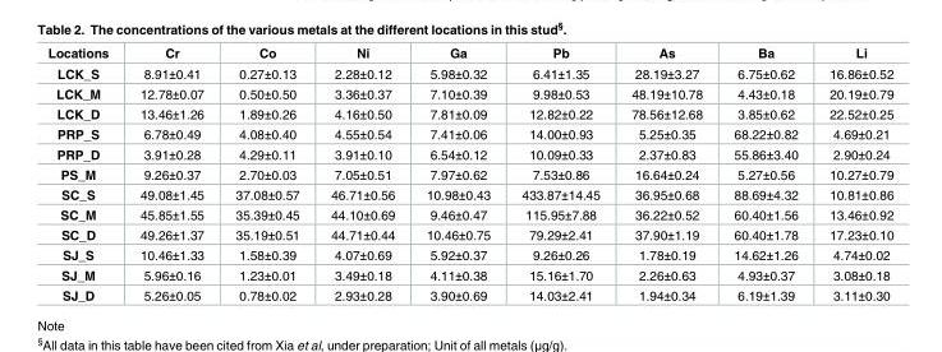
<table><thead><tr><td>Locations</td><td>Cr</td><td>Co</td><td>Ni</td><td>Ga</td><td>Pb</td><td>As</td><td>Ba</td><td>Li</td></tr></thead><tbody><tr><td>LCK_S</td><td>8.91±0.41</td><td>0.27±0.13</td><td>2.28±0.12</td><td>5.98±0.32</td><td>6.41±1.35</td><td>28.19±3.27</td><td>6.75±0.62</td><td>16.86±0.52</td></tr><tr><td>LCK_M</td><td>12.78±0.07</td><td>0.50±0.50</td><td>3.36±0.37</td><td>7.10±0.39</td><td>9.98±0.53</td><td>48.19±10.78</td><td>4.43±0.18</td><td>20.19±0.79</td></tr><tr><td>LCK_D</td><td>13.46±1.26</td><td>1.89±0.26</td><td>4.16±0.50</td><td>7.81±0.09</td><td>12.82±0.22</td><td>78.56±12.68</td><td>3.85±0.62</td><td>22.52±0.25</td></tr><tr><td>PRP_S</td><td>6.78±0.49</td><td>4.08±0.40</td><td>4.55±0.54</td><td>7.41±0.06</td><td>14.00±0.93</td><td>5.25±0.35</td><td>68.22±0.82</td><td>4.69±0.21</td></tr><tr><td>PRP_D</td><td>3.91±0.28</td><td>4.29±0.11</td><td>3.91±0.10</td><td>6.54±0.12</td><td>10.09±0.33</td><td>2.37±0.83</td><td>55.86±3.40</td><td>2.90±0.24</td></tr><tr><td>PS_M</td><td>9.26±0.37</td><td>2.70±0.03</td><td>7.05±0.51</td><td>7.97±0.62</td><td>7.53±0.86</td><td>16.64±0.24</td><td>5.27±0.56</td><td>10.27±0.79</td></tr><tr><td>SC_S</td><td>49.08±1.45</td><td>37.08±0.57</td><td>46.71±0.56</td><td>10.98±0.43</td><td>433.87±14.45</td><td>36.95±0.68</td><td>88.69±4.32</td><td>10.81±0.86</td></tr><tr><td>SC_M</td><td>45.85±1.55</td><td>35.39±0.45</td><td>44.10±0.69</td><td>9.46±0.47</td><td>115.95±7.88</td><td>36.22±0.52</td><td>60.40±1.56</td><td>13.46±0.92</td></tr><tr><td>SC_D</td><td>49.26±1.37</td><td>35.19±0.51</td><td>44.71±0.44</td><td>10.46±0.75</td><td>79.29±2.41</td><td>37.90±1.19</td><td>60.40±1.78</td><td>17.23±0.10</td></tr><tr><td>SJ_S</td><td>10.46±1.33</td><td>1.58±0.39</td><td>4.07±0.69</td><td>5.92±0.37</td><td>9.26±0.26</td><td>1.78±0.19</td><td>14.62±1.26</td><td>4.74±0.02</td></tr><tr><td>SJ_M</td><td>5.96±0.16</td><td>1.23±0.01</td><td>3.49±0.18</td><td>4.11±0.38</td><td>15.16±1.70</td><td>2.26±0.63</td><td>4.93±0.37</td><td>3.08±0.18</td></tr><tr><td>SJ_D</td><td>5.26±0.05</td><td>0.78±0.02</td><td>2.93±0.28</td><td>3.90±0.69</td><td>14.03±2.41</td><td>1.94±0.34</td><td>6.19±1.39</td><td>3.11±0.30</td></tr></tbody></table>